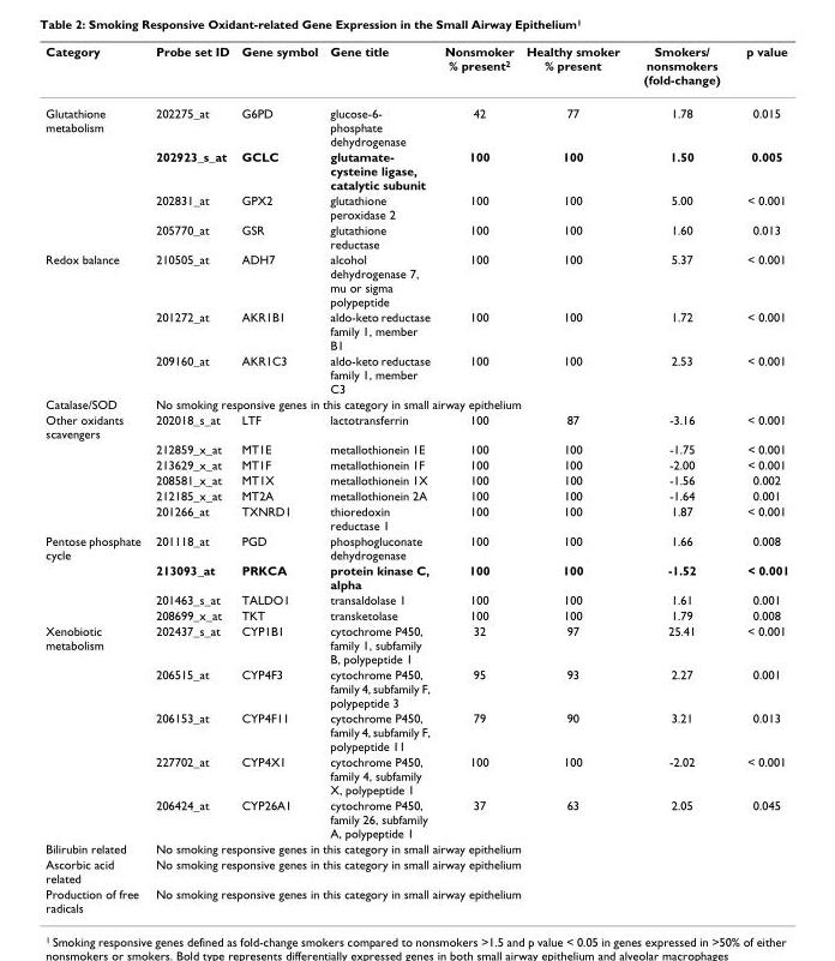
<table><thead><tr><td>Category</td><td>Probe set ID</td><td>Gene symbol</td><td>Gene title</td><td>Nonsmoker % present<sup>2</sup></td><td>Healthy smoker % present</td><td>Smokers/ nonsmokers (fold-change)</td><td>p value</td></tr></thead><tbody><tr><td rowspan="4">Glutathione metabolism</td><td>202275_at</td><td>G6PD</td><td>glucose-6- phosphate dehydrogenase</td><td>42</td><td>77</td><td>1.78</td><td>0.015</td></tr><tr><td>202923_s_at</td><td>GCLC</td><td>glutamate- cysteine ligase, catalytic subunit</td><td>100</td><td>100</td><td>1.50</td><td>0.005</td></tr><tr><td>202831_at</td><td>GPX2</td><td>glutathione peroxidase 2</td><td>100</td><td>100</td><td>5.00</td><td>&lt; 0.001</td></tr><tr><td>205770_at</td><td>GSR</td><td>glutathione reductase</td><td>100</td><td>100</td><td>1.60</td><td>0.013</td></tr><tr><td rowspan="3">Redox balance</td><td>210505_at</td><td>ADH7</td><td>alcohol dehydrogenase 7, mu or sigma polypeptide</td><td>100</td><td>100</td><td>5.37</td><td>&lt; 0.001</td></tr><tr><td>201272_at</td><td>AKR1B1</td><td>aldo-keto reductase family 1, member B1</td><td>100</td><td>100</td><td>1.72</td><td>&lt; 0.001</td></tr><tr><td>209160_at</td><td>AKR1C3</td><td>aldo-keto reductase family 1, member C3</td><td>100</td><td>100</td><td>2.53</td><td>&lt; 0.001</td></tr><tr><td>Catalase/SOD</td><td colspan="7">No smoking responsive genes in this category in small airway epithelium</td></tr><tr><td rowspan="6">Other oxidants scavengers</td><td>202018_s_at</td><td>LTF</td><td>lactotransferrin</td><td>100</td><td>87</td><td>-3.16</td><td>&lt; 0.001</td></tr><tr><td>212859_x_at</td><td>MT1E</td><td>metallothionein 1E</td><td>100</td><td>100</td><td>-1.75</td><td>&lt; 0.001</td></tr><tr><td>213629_x_at</td><td>MT1F</td><td>metallothionein 1F</td><td>100</td><td>100</td><td>-2.00</td><td>&lt; 0.001</td></tr><tr><td>208581_x_at</td><td>MT1X</td><td>metallothionein 1X</td><td>100</td><td>100</td><td>-1.56</td><td>0.002</td></tr><tr><td>212185_x_at</td><td>MT2A</td><td>metallothionein 2A</td><td>100</td><td>100</td><td>-1.64</td><td>0.001</td></tr><tr><td>201266_at</td><td>TXNRD1</td><td>thioredoxin reductase 1</td><td>100</td><td>100</td><td>1.87</td><td>&lt; 0.001</td></tr><tr><td rowspan="4">Pentose phosphate cycle</td><td>201118_at</td><td>PGD</td><td>phosphogluconate dehydrogenase</td><td>100</td><td>100</td><td>1.66</td><td>0.008</td></tr><tr><td>213093_at</td><td>PRKCA</td><td>protein kinase C, alpha</td><td>100</td><td>100</td><td>-1.52</td><td>&lt; 0.001</td></tr><tr><td>201463_s_at</td><td>TALDO1</td><td>transaldolase 1</td><td>100</td><td>100</td><td>1.61</td><td>0.001</td></tr><tr><td>208699_x_at</td><td>TKT</td><td>transketolase</td><td>100</td><td>100</td><td>1.79</td><td>0.008</td></tr><tr><td rowspan="5">Xenobiotic metabolism</td><td>202437_s_at</td><td>CYP1B1</td><td>cytochrome P450, family 1, subfamily B, polypeptide 1</td><td>32</td><td>97</td><td>25.41</td><td>&lt; 0.001</td></tr><tr><td>206515_at</td><td>CYP4F3</td><td>cytochrome P450, family 4, subfamily F, polypeptide 3</td><td>95</td><td>93</td><td>2.27</td><td>0.001</td></tr><tr><td>206153_at</td><td>CYP4F11</td><td>cytochrome P450, family 4, subfamily F, polypeptide 11</td><td>79</td><td>90</td><td>3.21</td><td>0.013</td></tr><tr><td>227702_at</td><td>CYP4X1</td><td>cytochrome P450, family 4, subfamily X, polypeptide 1</td><td>100</td><td>100</td><td>-2.02</td><td>&lt; 0.001</td></tr><tr><td>206424_at</td><td>CYP26A1</td><td>cytochrome P450, family 26, subfamily A, polypeptide 1</td><td>37</td><td>63</td><td>2.05</td><td>0.045</td></tr><tr><td>Bilirubin related</td><td colspan="7">No smoking responsive genes in this category in small airway epithelium</td></tr><tr><td>Ascorbic acid related</td><td colspan="7">No smoking responsive genes in this category in small airway epithelium</td></tr><tr><td>Production of free radicals</td><td colspan="7">No smoking responsive genes in this category in small airway epithelium</td></tr></tbody></table>